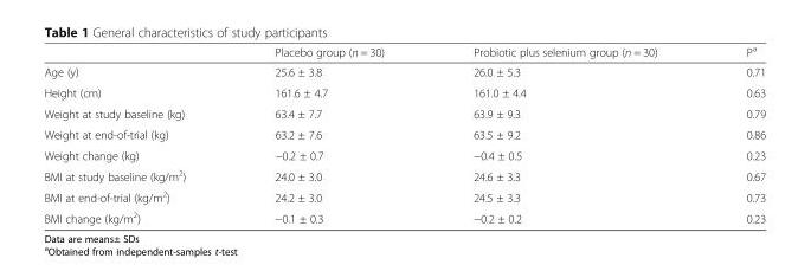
<table><thead><tr><td></td><td>Placebo group (n = 30)</td><td>Probiotic plus selenium group (n = 30)</td><td>P<sup>a</sup></td></tr></thead><tbody><tr><td>Age (y)</td><td>25.6 ± 3.8</td><td>26.0 ± 5.3</td><td>0.71</td></tr><tr><td>Height (cm)</td><td>161.6 ± 4.7</td><td>161.0 ± 4.4</td><td>0.63</td></tr><tr><td>Weight at study baseline (kg)</td><td>63.4 ± 7.7</td><td>63.9 ± 9.3</td><td>0.79</td></tr><tr><td>Weight at end-of-trial (kg)</td><td>63.2 ± 7.6</td><td>63.5 ± 9.2</td><td>0.86</td></tr><tr><td>Weight change (kg)</td><td>−0.2 ± 0.7</td><td>−0.4 ± 0.5</td><td>0.23</td></tr><tr><td>BMI at study baseline (kg/m<sup>2</sup>)</td><td>24.0 ± 3.0</td><td>24.6 ± 3.3</td><td>0.67</td></tr><tr><td>BMI at end-of-trial (kg/m<sup>2</sup>)</td><td>24.2 ± 3.0</td><td>24.5 ± 3.3</td><td>0.73</td></tr><tr><td>BMI change (kg/m<sup>2</sup>)</td><td>−0.1 ± 0.3</td><td>−0.2 ± 0.2</td><td>0.23</td></tr></tbody></table>